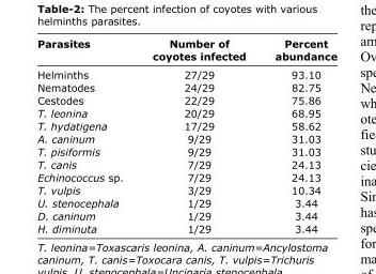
<table><thead><tr><td>Parasites</td><td>Number of coyotes infected</td><td>Percent abundance</td></tr></thead><tbody><tr><td>Helminths</td><td>27/29</td><td>93.10</td></tr><tr><td>Nematodes</td><td>24/29</td><td>82.75</td></tr><tr><td>Cestodes</td><td>22/29</td><td>75.86</td></tr><tr><td>T. leonina</td><td>20/29</td><td>68.95</td></tr><tr><td>T. hydatigena</td><td>17/29</td><td>58.62</td></tr><tr><td>A. caninum</td><td>9/29</td><td>31.03</td></tr><tr><td>T. pisiformis</td><td>9/29</td><td>31.03</td></tr><tr><td>T. canis</td><td>7/29</td><td>24.13</td></tr><tr><td>Echinococcus sp.</td><td>7/29</td><td>24.13</td></tr><tr><td>T. vulpis</td><td>3/29</td><td>10.34</td></tr><tr><td>U. stenocephala</td><td>1/29</td><td>3.44</td></tr><tr><td>D. caninum</td><td>1/29</td><td>3.44</td></tr><tr><td>H. diminuta</td><td>1/29</td><td>3.44</td></tr></tbody></table>